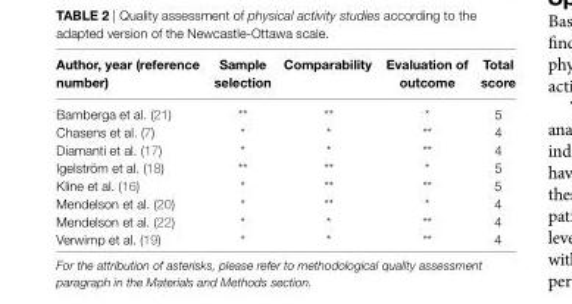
<table><thead><tr><td>author, year (reference number)</td><td>Sample selection</td><td>comparability</td><td>evaluation of outcome</td><td>total score</td></tr></thead><tbody><tr><td>Bamberga et al. (21)</td><td>**</td><td>**</td><td>*</td><td>5</td></tr><tr><td>Chasens et al. (7)</td><td>*</td><td>*</td><td>**</td><td>4</td></tr><tr><td>Diamanti et al. (17)</td><td>*</td><td>*</td><td>**</td><td>4</td></tr><tr><td>Igelström et al. (18)</td><td>**</td><td>**</td><td>*</td><td>5</td></tr><tr><td>Kline et al. (16)</td><td>*</td><td>**</td><td>**</td><td>5</td></tr><tr><td>Mendelson et al. (20)</td><td>*</td><td>**</td><td>*</td><td>4</td></tr><tr><td>Mendelson et al. (22)</td><td>*</td><td>*</td><td>**</td><td>4</td></tr><tr><td>Verwimp et al. (19)</td><td>*</td><td>*</td><td>**</td><td>4</td></tr></tbody></table>